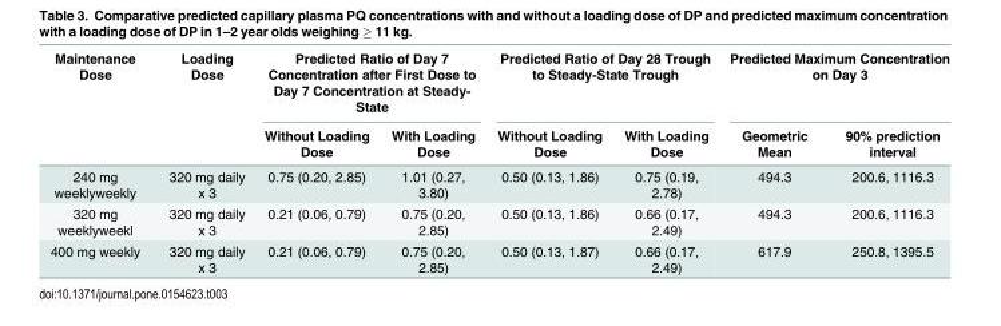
<table><thead><tr><td rowspan="2">Maintenance Dose</td><td rowspan="2">Loading Dose</td><td colspan="2">Predicted Ratio of Day 7 Concentration after First Dose to Day 7 Concentration at Steady- State</td><td colspan="2">Predicted Ratio of Day 28 Trough to Steady-State Trough</td><td colspan="2">Predicted Maximum Concentration on Day 3</td></tr><tr><td>Without Loading Dose</td><td>With Loading Dose</td><td>Without Loading Dose</td><td>With Loading Dose</td><td>Geometric Mean</td><td>90% prediction interval</td></tr></thead><tbody><tr><td>240 mg weeklyweekly</td><td>320 mg daily x 3</td><td>0.75 (0.20, 2.85)</td><td>1.01 (0.27, 3.80)</td><td>0.50 (0.13, 1.86)</td><td>0.75 (0.19, 2.78)</td><td>494.3</td><td>200.6, 1116.3</td></tr><tr><td>320 mg weeklyweekl</td><td>320 mg daily x 3</td><td>0.21 (0.06, 0.79)</td><td>0.75 (0.20, 2.85)</td><td>0.50 (0.13, 1.86)</td><td>0.66 (0.17, 2.49)</td><td>494.3</td><td>200.6, 1116.3</td></tr><tr><td>400 mg weekly</td><td>320 mg daily x 3</td><td>0.21 (0.06, 0.79)</td><td>0.75 (0.20, 2.85)</td><td>0.50 (0.13, 1.87)</td><td>0.66 (0.17, 2.49)</td><td>617.9</td><td>250.8, 1395.5</td></tr></tbody></table>